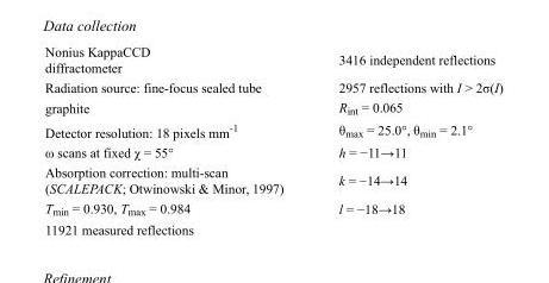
<table><tbody><tr><td>Nonius KappaCCD diffractometer</td><td>3416 independent reflections</td></tr><tr><td>Radiation source: fine-focus sealed tube</td><td>2957 reflections with I &gt; 2σ(I)</td></tr><tr><td>graphite</td><td>R<sub>int</sub> = 0.065</td></tr><tr><td>Detector resolution: 18 pixels mm<sup>-1</sup></td><td>θ<sub>max</sub> = 25.0°, θ<sub>min</sub> = 2.1°</td></tr><tr><td>ω scans at fixed χ = 55°</td><td>h = −11→11</td></tr><tr><td>Absorption correction: multi-scan (SCALEPACK; Otwinowski &amp; Minor, 1997)</td><td>k = −14→14</td></tr><tr><td>T<sub>min</sub> = 0.930, T<sub>max</sub> = 0.984</td><td>l = −18→18</td></tr><tr><td>11921 measured reflections</td><td></td></tr></tbody></table>